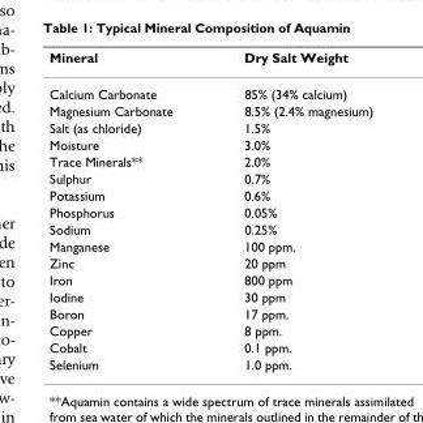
<table><thead><tr><td>Mineral</td><td>Dry Salt Weight</td></tr></thead><tbody><tr><td>Calcium Carbonate</td><td>85% (34% calcium)</td></tr><tr><td>Magnesium Carbonate</td><td>8.5% (2.4% magnesium)</td></tr><tr><td>Salt (as chloride)</td><td>1.5%</td></tr><tr><td>Moisture</td><td>3.0%</td></tr><tr><td>Trace Minerals**</td><td>2.0%</td></tr><tr><td>Sulphur</td><td>0.7%</td></tr><tr><td>Potassium</td><td>0.6%</td></tr><tr><td>Phosphorus</td><td>0.05%</td></tr><tr><td>Sodium</td><td>0.25%</td></tr><tr><td>Manganese</td><td>100 ppm.</td></tr><tr><td>Zinc</td><td>20 ppm</td></tr><tr><td>Iron</td><td>800 ppm</td></tr><tr><td>Iodine</td><td>30 ppm</td></tr><tr><td>Boron</td><td>17 ppm.</td></tr><tr><td>Copper</td><td>8 ppm.</td></tr><tr><td>Cobalt</td><td>0.1 ppm.</td></tr><tr><td>Selenium</td><td>1.0 ppm.</td></tr></tbody></table>